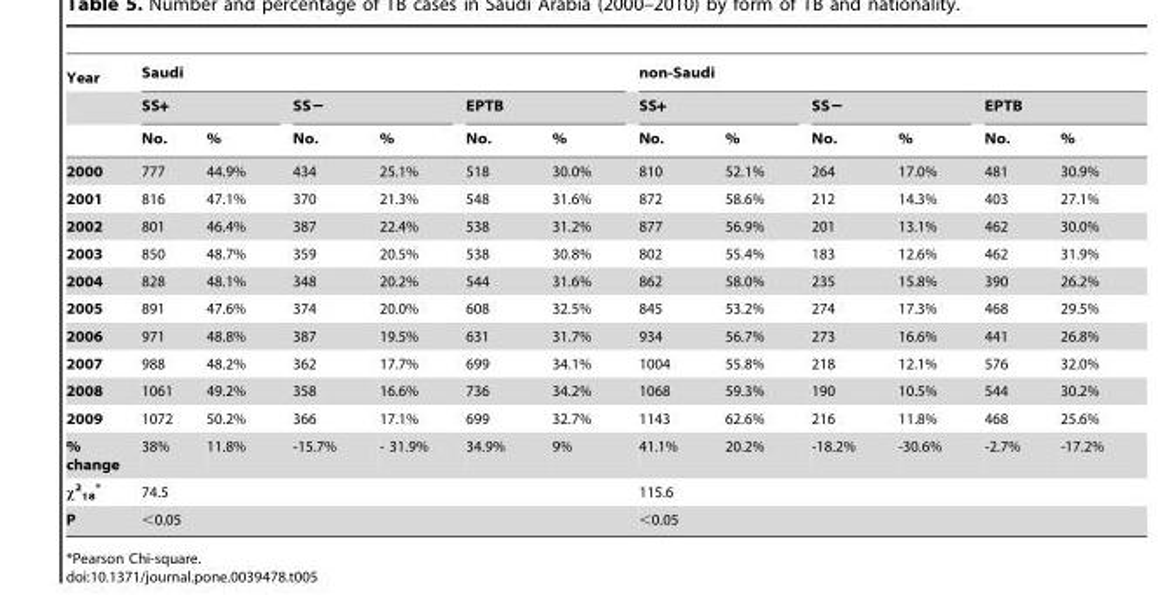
<table><thead><tr><td rowspan="3">Year</td><td colspan="6">Saudi</td><td colspan="6">non-Saudi</td></tr><tr><td colspan="2">SS+</td><td colspan="2">SS−</td><td colspan="2">EPTB</td><td colspan="2">SS+</td><td colspan="2">SS−</td><td colspan="2">EPTB</td></tr><tr><td>No.</td><td>%</td><td>No.</td><td>%</td><td>No.</td><td>%</td><td>No.</td><td>%</td><td>No.</td><td>%</td><td>No.</td><td>%</td></tr></thead><tbody><tr><td>2000</td><td>777</td><td>44.9%</td><td>434</td><td>25.1%</td><td>518</td><td>30.0%</td><td>810</td><td>52.1%</td><td>264</td><td>17.0%</td><td>481</td><td>30.9%</td></tr><tr><td>2001</td><td>816</td><td>47.1%</td><td>370</td><td>21.3%</td><td>548</td><td>31.6%</td><td>872</td><td>58.6%</td><td>212</td><td>14.3%</td><td>403</td><td>27.1%</td></tr><tr><td>2002</td><td>801</td><td>46.4%</td><td>387</td><td>22.4%</td><td>538</td><td>31.2%</td><td>877</td><td>56.9%</td><td>201</td><td>13.1%</td><td>462</td><td>30.0%</td></tr><tr><td>2003</td><td>850</td><td>48.7%</td><td>359</td><td>20.5%</td><td>538</td><td>30.8%</td><td>802</td><td>55.4%</td><td>183</td><td>12.6%</td><td>462</td><td>31.9%</td></tr><tr><td>2004</td><td>828</td><td>48.1%</td><td>348</td><td>20.2%</td><td>544</td><td>31.6%</td><td>862</td><td>58.0%</td><td>235</td><td>15.8%</td><td>390</td><td>26.2%</td></tr><tr><td>2005</td><td>891</td><td>47.6%</td><td>374</td><td>20.0%</td><td>608</td><td>32.5%</td><td>845</td><td>53.2%</td><td>274</td><td>17.3%</td><td>468</td><td>29.5%</td></tr><tr><td>2006</td><td>971</td><td>48.8%</td><td>387</td><td>19.5%</td><td>631</td><td>31.7%</td><td>934</td><td>56.7%</td><td>273</td><td>16.6%</td><td>441</td><td>26.8%</td></tr><tr><td>2007</td><td>988</td><td>48.2%</td><td>362</td><td>17.7%</td><td>699</td><td>34.1%</td><td>1004</td><td>55.8%</td><td>218</td><td>12.1%</td><td>576</td><td>32.0%</td></tr><tr><td>2008</td><td>1061</td><td>49.2%</td><td>358</td><td>16.6%</td><td>736</td><td>34.2%</td><td>1068</td><td>59.3%</td><td>190</td><td>10.5%</td><td>544</td><td>30.2%</td></tr><tr><td>2009</td><td>1072</td><td>50.2%</td><td>366</td><td>17.1%</td><td>699</td><td>32.7%</td><td>1143</td><td>62.6%</td><td>216</td><td>11.8%</td><td>468</td><td>25.6%</td></tr><tr><td>% change</td><td>38%</td><td>11.8%</td><td>-15.7%</td><td>- 31.9%</td><td>34.9%</td><td>9%</td><td>41.1%</td><td>20.2%</td><td>-18.2%</td><td>-30.6%</td><td>-2.7%</td><td>-17.2%</td></tr><tr><td>χ<sup>2</sup> <sub>18</sub> *</td><td colspan="6">74.5</td><td colspan="6">115.6</td></tr><tr><td>P</td><td colspan="6">&lt;0.05</td><td colspan="6">&lt;0.05</td></tr></tbody></table>